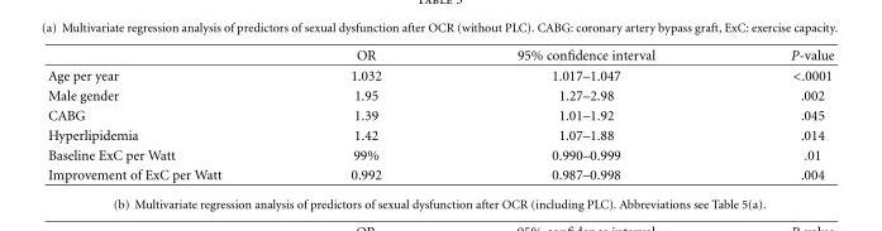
<table><thead><tr><td></td><td>OR</td><td>95% confidence interval</td><td>P-value</td></tr></thead><tbody><tr><td>Age per year</td><td>1.032</td><td>1.017–1.047</td><td>&lt;.0001</td></tr><tr><td>Male gender</td><td>1.95</td><td>1.27–2.98</td><td>.002</td></tr><tr><td>CABG</td><td>1.39</td><td>1.01–1.92</td><td>.045</td></tr><tr><td>Hyperlipidemia</td><td>1.42</td><td>1.07–1.88</td><td>.014</td></tr><tr><td>Baseline ExC per Watt</td><td>99%</td><td>0.990–0.999</td><td>.01</td></tr><tr><td>Improvement of ExC per Watt</td><td>0.992</td><td>0.987–0.998</td><td>.004</td></tr></tbody></table>